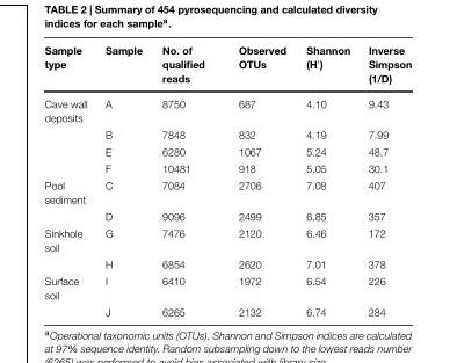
<table><thead><tr><td>Sample type</td><td>Sample</td><td>No. of qualified reads</td><td>Observed OTUs</td><td>Shannon (H′)</td><td>Inverse Simpson (1/D)</td></tr></thead><tbody><tr><td rowspan="4">Cave wall deposits</td><td>A</td><td>8750</td><td>687</td><td>4.10</td><td>9.43</td></tr><tr><td>B</td><td>7848</td><td>832</td><td>4.19</td><td>7.99</td></tr><tr><td>E</td><td>6280</td><td>1067</td><td>5.24</td><td>48.7</td></tr><tr><td>F</td><td>10481</td><td>918</td><td>5.05</td><td>30.1</td></tr><tr><td rowspan="2">Pool sediment</td><td>C</td><td>7084</td><td>2706</td><td>7.08</td><td>407</td></tr><tr><td>D</td><td>9096</td><td>2499</td><td>6.85</td><td>357</td></tr><tr><td rowspan="2">Sinkhole soil</td><td>G</td><td>7476</td><td>2120</td><td>6.46</td><td>172</td></tr><tr><td>H</td><td>6854</td><td>2620</td><td>7.01</td><td>378</td></tr><tr><td rowspan="2">Surface soil</td><td>I</td><td>6410</td><td>1972</td><td>6.54</td><td>226</td></tr><tr><td>J</td><td>6265</td><td>2132</td><td>6.74</td><td>284</td></tr></tbody></table>